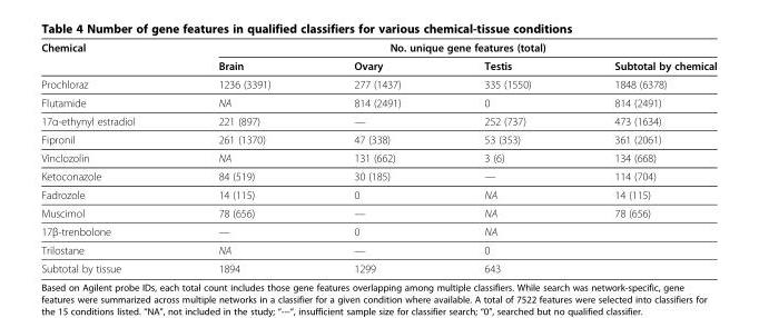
<table><thead><tr><td rowspan="2">Chemical</td><td colspan="4">No. unique gene features (total)</td></tr><tr><td>Brain</td><td>Ovary</td><td>Testis</td><td>Subtotal by chemical</td></tr></thead><tbody><tr><td>Prochloraz</td><td>1236 (3391)</td><td>277 (1437)</td><td>335 (1550)</td><td>1848 (6378)</td></tr><tr><td>Flutamide</td><td>NA</td><td>814 (2491)</td><td>0</td><td>814 (2491)</td></tr><tr><td>17α-ethynyl estradiol</td><td>221 (897)</td><td>—</td><td>252 (737)</td><td>473 (1634)</td></tr><tr><td>Fipronil</td><td>261 (1370)</td><td>47 (338)</td><td>53 (353)</td><td>361 (2061)</td></tr><tr><td>Vinclozolin</td><td>NA</td><td>131 (662)</td><td>3 (6)</td><td>134 (668)</td></tr><tr><td>Ketoconazole</td><td>84 (519)</td><td>30 (185)</td><td>—</td><td>114 (704)</td></tr><tr><td>Fadrozole</td><td>14 (115)</td><td>0</td><td>NA</td><td>14 (115)</td></tr><tr><td>Muscimol</td><td>78 (656)</td><td>—</td><td>NA</td><td>78 (656)</td></tr><tr><td>17β-trenbolone</td><td>—</td><td>0</td><td>NA</td><td></td></tr><tr><td>Trilostane</td><td>NA</td><td>—</td><td>0</td><td></td></tr><tr><td>Subtotal by tissue</td><td>1894</td><td>1299</td><td>643</td><td></td></tr></tbody></table>